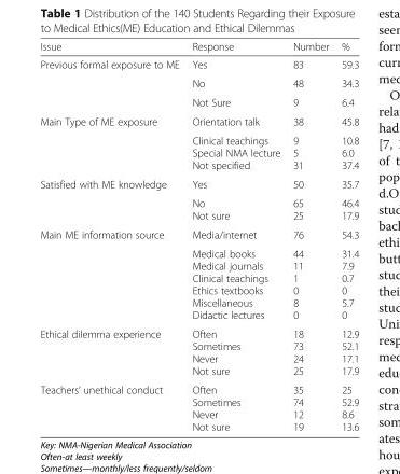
<table><thead><tr><td>Issue</td><td>Response</td><td>Number</td><td>%</td></tr></thead><tbody><tr><td rowspan="3">Previous formal exposure to ME</td><td>Yes</td><td>83</td><td>59.3</td></tr><tr><td>No</td><td>48</td><td>34.3</td></tr><tr><td>Not Sure</td><td>9</td><td>6.4</td></tr><tr><td rowspan="2">Main Type of ME exposure</td><td>Orientation talk</td><td>38</td><td>45.8</td></tr><tr><td>Clinical teachings Special NMA lecture Not specified</td><td>9 5 31</td><td>10.8 6.0 37.4</td></tr><tr><td rowspan="2">Satisfied with ME knowledge</td><td>Yes</td><td>50</td><td>35.7</td></tr><tr><td>No Not sure</td><td>65 25</td><td>46.4 17.9</td></tr><tr><td rowspan="2">Main ME information source</td><td>Media/internet</td><td>76</td><td>54.3</td></tr><tr><td>Medical books Medical journals Clinical teachings Ethics textbooks Miscellaneous Didactic lectures</td><td>44 11 1 0 8 0</td><td>31.4 7.9 0.7 0 5.7 0</td></tr><tr><td>Ethical dilemma experience</td><td>Often Sometimes Never Not sure</td><td>18 73 24 25</td><td>12.9 52.1 17.1 17.9</td></tr><tr><td>Teachers’ unethical conduct</td><td>Often Sometimes Never Not sure</td><td>35 74 12 19</td><td>25 52.9 8.6 13.6</td></tr></tbody></table>